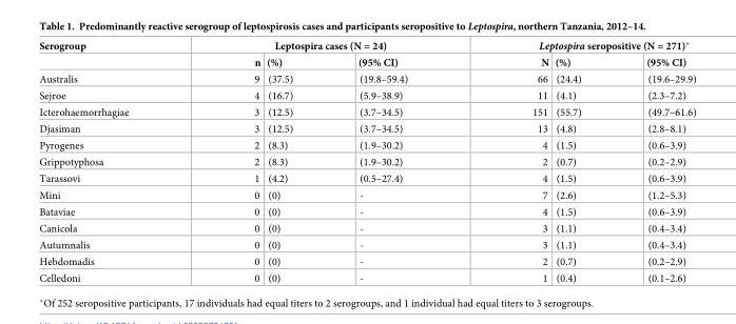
<table><thead><tr><td rowspan="2">Serogroup</td><td colspan="3">Leptospira cases (N = 24)</td><td colspan="3">Leptospira seropositive (N = 271)*</td></tr><tr><td>n</td><td>(%)</td><td>(95% CI)</td><td>N</td><td>(%)</td><td>(95% CI)</td></tr></thead><tbody><tr><td>Australis</td><td>9</td><td>(37.5)</td><td>(19.8–59.4)</td><td>66</td><td>(24.4)</td><td>(19.6–29.9)</td></tr><tr><td>Sejroe</td><td>4</td><td>(16.7)</td><td>(5.9–38.9)</td><td>11</td><td>(4.1)</td><td>(2.3–7.2)</td></tr><tr><td>Icterohaemorrhagiae</td><td>3</td><td>(12.5)</td><td>(3.7–34.5)</td><td>151</td><td>(55.7)</td><td>(49.7–61.6)</td></tr><tr><td>Djasiman</td><td>3</td><td>(12.5)</td><td>(3.7–34.5)</td><td>13</td><td>(4.8)</td><td>(2.8–8.1)</td></tr><tr><td>Pyrogenes</td><td>2</td><td>(8.3)</td><td>(1.9–30.2)</td><td>4</td><td>(1.5)</td><td>(0.6–3.9)</td></tr><tr><td>Grippotyphosa</td><td>2</td><td>(8.3)</td><td>(1.9–30.2)</td><td>2</td><td>(0.7)</td><td>(0.2–2.9)</td></tr><tr><td>Tarassovi</td><td>1</td><td>(4.2)</td><td>(0.5–27.4)</td><td>4</td><td>(1.5)</td><td>(0.6–3.9)</td></tr><tr><td>Mini</td><td>0</td><td>(0)</td><td>-</td><td>7</td><td>(2.6)</td><td>(1.2–5.3)</td></tr><tr><td>Bataviae</td><td>0</td><td>(0)</td><td>-</td><td>4</td><td>(1.5)</td><td>(0.6–3.9)</td></tr><tr><td>Canicola</td><td>0</td><td>(0)</td><td>-</td><td>3</td><td>(1.1)</td><td>(0.4–3.4)</td></tr><tr><td>Autumnalis</td><td>0</td><td>(0)</td><td>-</td><td>3</td><td>(1.1)</td><td>(0.4–3.4)</td></tr><tr><td>Hebdomadis</td><td>0</td><td>(0)</td><td>-</td><td>2</td><td>(0.7)</td><td>(0.2–2.9)</td></tr><tr><td>Celledoni</td><td>0</td><td>(0)</td><td>-</td><td>1</td><td>(0.4)</td><td>(0.1–2.6)</td></tr></tbody></table>